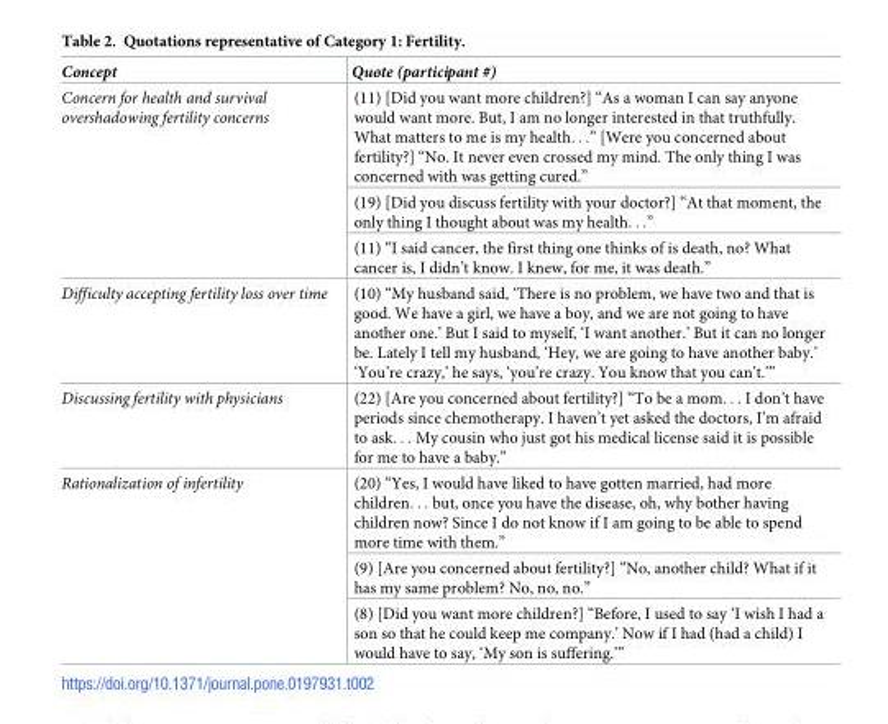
<table><thead><tr><td>Concept</td><td>Quote (participant #)</td></tr></thead><tbody><tr><td rowspan="3">Concern for health and survival overshadowing fertility concerns</td><td>(11) [Did you want more children?] “As a woman I can say anyone would want more. But, I am no longer interested in that truthfully. What matters to me is my health. . .” [Were you concerned about fertility?] “No. It never even crossed my mind. The only thing I was concerned with was getting cured.”</td></tr><tr><td>(19) [Did you discuss fertility with your doctor?] “At that moment, the only thing I thought about was my health. . .”</td></tr><tr><td>(11) “I said cancer, the first thing one thinks of is death, no? What cancer is, I didn’t know. I knew, for me, it was death.”</td></tr><tr><td>Difficulty accepting fertility loss over time</td><td>(10) “My husband said, ‘There is no problem, we have two and that is good. We have a girl, we have a boy, and we are not going to have another one.’ But I said to myself, ‘I want another.’ But it can no longer be. Lately I tell my husband, ‘Hey, we are going to have another baby.’ ‘You’re crazy,’ he says, ‘you’re crazy. You know that you can’t.’”</td></tr><tr><td>Discussing fertility with physicians</td><td>(22) [Are you concerned about fertility?] “To be a mom. . . I don’t have periods since chemotherapy. I haven’t yet asked the doctors, I’m afraid to ask. . . My cousin who just got his medical license said it is possible for me to have a baby.”</td></tr><tr><td rowspan="3">Rationalization of infertility</td><td>(20) “Yes, I would have liked to have gotten married, had more children. . . but, once you have the disease, oh, why bother having children now? Since I do not know if I am going to be able to spend more time with them.”</td></tr><tr><td>(9) [Are you concerned about fertility?] “No, another child? What if it has my same problem? No, no, no.”</td></tr><tr><td>(8) [Did you want more children?] “Before, I used to say ‘I wish I had a son so that he could keep me company.’ Now if I had (had a child) I would have to say, ‘My son is suffering.’”</td></tr></tbody></table>